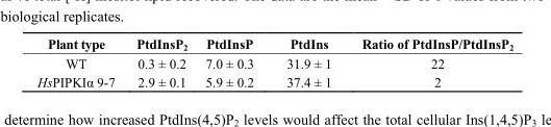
<table><thead><tr><td>Plant type</td><td>PtdInsP<sub>2</sub></td><td>PtdInsP</td><td>PtdIns</td><td>Ratio of PtdInsP/PtdInsP<sub>2</sub></td></tr></thead><tbody><tr><td>WT</td><td>0.3 ± 0.2</td><td>7.0 ± 0.3</td><td>31.9 ± 1</td><td>22</td></tr><tr><td>HsPIPKIα 9-7</td><td>2.9 ± 0.1</td><td>5.9 ± 0.2</td><td>37.4 ± 1</td><td>2</td></tr></tbody></table>